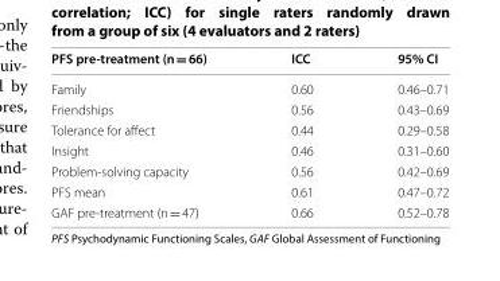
<table><thead><tr><td>PFS pre‑treatment (n = 66)</td><td>ICC</td><td>95% CI</td></tr></thead><tbody><tr><td>Family</td><td>0.60</td><td>0.46–0.71</td></tr><tr><td>Friendships</td><td>0.56</td><td>0.43–0.69</td></tr><tr><td>Tolerance for affect</td><td>0.44</td><td>0.29–0.58</td></tr><tr><td>Insight</td><td>0.46</td><td>0.31–0.60</td></tr><tr><td>Problem‑solving capacity</td><td>0.56</td><td>0.42–0.69</td></tr><tr><td>PFS mean</td><td>0.61</td><td>0.47–0.72</td></tr><tr><td>GAF pre‑treatment (n = 47)</td><td>0.66</td><td>0.52–0.78</td></tr></tbody></table>